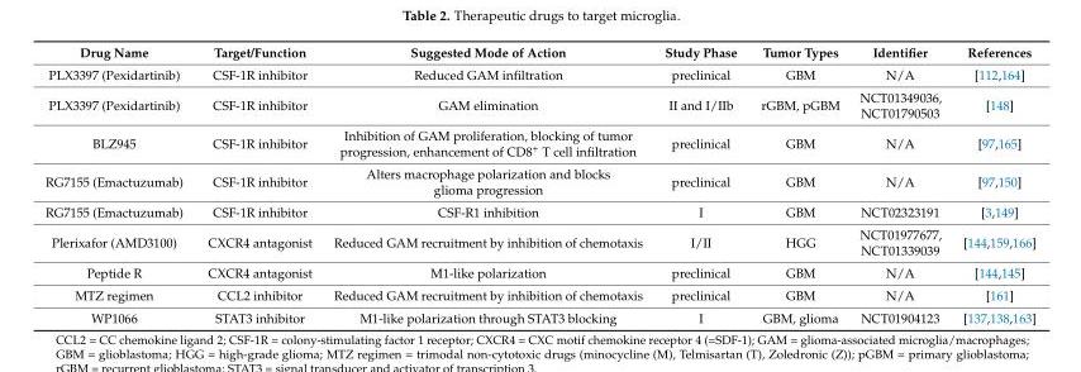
<table><thead><tr><td>Drug Name</td><td>Target/Function</td><td>Suggested Mode of Action</td><td>Study Phase</td><td>Tumor Types</td><td>Identifier</td><td>References</td></tr></thead><tbody><tr><td>PLX3397 (Pexidartinib)</td><td>CSF-1R inhibitor</td><td>Reduced GAM infiltration</td><td>preclinical</td><td>GBM</td><td>N/A</td><td>[112,164]</td></tr><tr><td>PLX3397 (Pexidartinib)</td><td>CSF-1R inhibitor</td><td>GAM elimination</td><td>II and I/IIb</td><td>rGBM, pGBM</td><td>NCT01349036, NCT01790503</td><td>[148]</td></tr><tr><td>BLZ945</td><td>CSF-1R inhibitor</td><td>Inhibition of GAM proliferation, blocking of tumor progression, enhancement of CD8<sup>+</sup> T cell infiltration</td><td>preclinical</td><td>GBM</td><td>N/A</td><td>[97,165]</td></tr><tr><td>RG7155 (Emactuzumab)</td><td>CSF-1R inhibitor</td><td>Alters macrophage polarization and blocks glioma progression</td><td>preclinical</td><td>GBM</td><td>N/A</td><td>[97,150]</td></tr><tr><td>RG7155 (Emactuzumab)</td><td>CSF-1R inhibitor</td><td>CSF-R1 inhibition</td><td>I</td><td>GBM</td><td>NCT02323191</td><td>[3,149]</td></tr><tr><td>Plerixafor (AMD3100)</td><td>CXCR4 antagonist</td><td>Reduced GAM recruitment by inhibition of chemotaxis</td><td>I/II</td><td>HGG</td><td>NCT01977677, NCT01339039</td><td>[144,159,166]</td></tr><tr><td>Peptide R</td><td>CXCR4 antagonist</td><td>M1-like polarization</td><td>preclinical</td><td>GBM</td><td>N/A</td><td>[144,145]</td></tr><tr><td>MTZ regimen</td><td>CCL2 inhibitor</td><td>Reduced GAM recruitment by inhibition of chemotaxis</td><td>preclinical</td><td>GBM</td><td>N/A</td><td>[161]</td></tr><tr><td>WP1066</td><td>STAT3 inhibitor</td><td>M1-like polarization through STAT3 blocking</td><td>I</td><td>GBM, glioma</td><td>NCT01904123</td><td>[137,138,163]</td></tr></tbody></table>